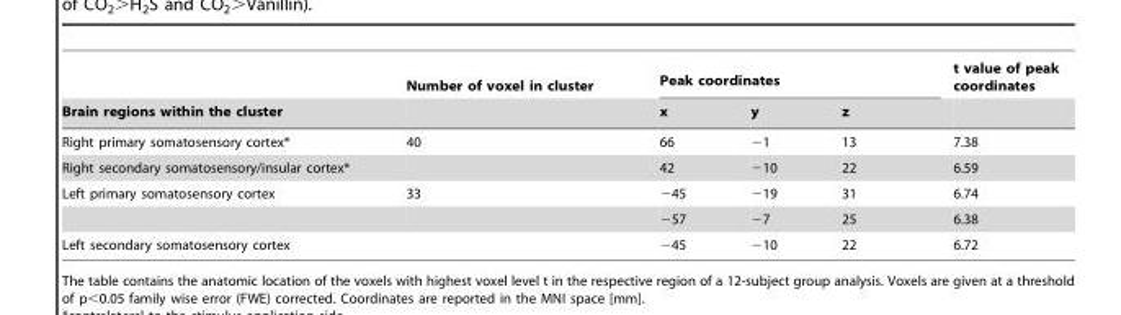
<table><thead><tr><td rowspan="2">Brain regions within the cluster</td><td rowspan="2">Number of voxel in cluster</td><td colspan="3">Peak coordinates</td><td rowspan="2">t value of peak coordinates</td></tr><tr><td>x</td><td>y</td><td>z</td></tr></thead><tbody><tr><td>Right primary somatosensory cortex*</td><td>40</td><td>66</td><td>−1</td><td>13</td><td>7.38</td></tr><tr><td>Right secondary somatosensory/insular cortex*</td><td></td><td>42</td><td>−10</td><td>22</td><td>6.59</td></tr><tr><td rowspan="2">Left primary somatosensory cortex</td><td>33</td><td>−45</td><td>−19</td><td>31</td><td>6.74</td></tr><tr><td></td><td>−57</td><td>−7</td><td>25</td><td>6.38</td></tr><tr><td>Left secondary somatosensory cortex</td><td></td><td>−45</td><td>−10</td><td>22</td><td>6.72</td></tr></tbody></table>